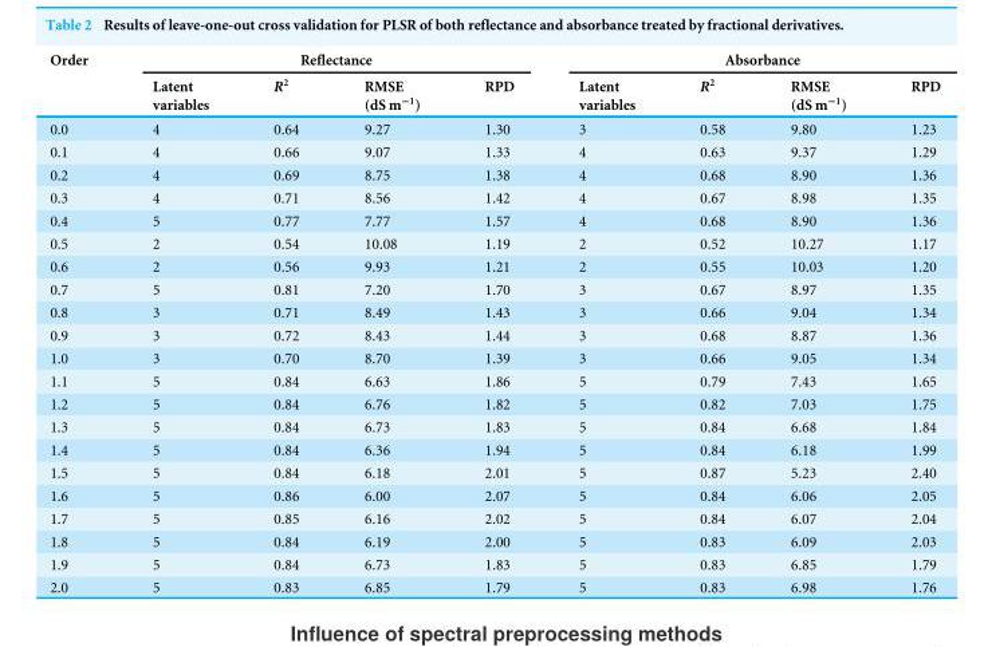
<table><thead><tr><td rowspan="2">Order</td><td colspan="4">Reflectance</td><td colspan="4">Absorbance</td></tr><tr><td>Latent variables</td><td>R<sup>2</sup></td><td>RMSE (dS m<sup>−1</sup>)</td><td>RPD</td><td>Latent variables</td><td>R<sup>2</sup></td><td>RMSE (dS m<sup>−1</sup>)</td><td>RPD</td></tr></thead><tbody><tr><td>0.0</td><td>4</td><td>0.64</td><td>9.27</td><td>1.30</td><td>3</td><td>0.58</td><td>9.80</td><td>1.23</td></tr><tr><td>0.1</td><td>4</td><td>0.66</td><td>9.07</td><td>1.33</td><td>4</td><td>0.63</td><td>9.37</td><td>1.29</td></tr><tr><td>0.2</td><td>4</td><td>0.69</td><td>8.75</td><td>1.38</td><td>4</td><td>0.68</td><td>8.90</td><td>1.36</td></tr><tr><td>0.3</td><td>4</td><td>0.71</td><td>8.56</td><td>1.42</td><td>4</td><td>0.67</td><td>8.98</td><td>1.35</td></tr><tr><td>0.4</td><td>5</td><td>0.77</td><td>7.77</td><td>1.57</td><td>4</td><td>0.68</td><td>8.90</td><td>1.36</td></tr><tr><td>0.5</td><td>2</td><td>0.54</td><td>10.08</td><td>1.19</td><td>2</td><td>0.52</td><td>10.27</td><td>1.17</td></tr><tr><td>0.6</td><td>2</td><td>0.56</td><td>9.93</td><td>1.21</td><td>2</td><td>0.55</td><td>10.03</td><td>1.20</td></tr><tr><td>0.7</td><td>5</td><td>0.81</td><td>7.20</td><td>1.70</td><td>3</td><td>0.67</td><td>8.97</td><td>1.35</td></tr><tr><td>0.8</td><td>3</td><td>0.71</td><td>8.49</td><td>1.43</td><td>3</td><td>0.66</td><td>9.04</td><td>1.34</td></tr><tr><td>0.9</td><td>3</td><td>0.72</td><td>8.43</td><td>1.44</td><td>3</td><td>0.68</td><td>8.87</td><td>1.36</td></tr><tr><td>1.0</td><td>3</td><td>0.70</td><td>8.70</td><td>1.39</td><td>3</td><td>0.66</td><td>9.05</td><td>1.34</td></tr><tr><td>1.1</td><td>5</td><td>0.84</td><td>6.63</td><td>1.86</td><td>5</td><td>0.79</td><td>7.43</td><td>1.65</td></tr><tr><td>1.2</td><td>5</td><td>0.84</td><td>6.76</td><td>1.82</td><td>5</td><td>0.82</td><td>7.03</td><td>1.75</td></tr><tr><td>1.3</td><td>5</td><td>0.84</td><td>6.73</td><td>1.83</td><td>5</td><td>0.84</td><td>6.68</td><td>1.84</td></tr><tr><td>1.4</td><td>5</td><td>0.84</td><td>6.36</td><td>1.94</td><td>5</td><td>0.84</td><td>6.18</td><td>1.99</td></tr><tr><td>1.5</td><td>5</td><td>0.84</td><td>6.18</td><td>2.01</td><td>5</td><td>0.87</td><td>5.23</td><td>2.40</td></tr><tr><td>1.6</td><td>5</td><td>0.86</td><td>6.00</td><td>2.07</td><td>5</td><td>0.84</td><td>6.06</td><td>2.05</td></tr><tr><td>1.7</td><td>5</td><td>0.85</td><td>6.16</td><td>2.02</td><td>5</td><td>0.84</td><td>6.07</td><td>2.04</td></tr><tr><td>1.8</td><td>5</td><td>0.84</td><td>6.19</td><td>2.00</td><td>5</td><td>0.83</td><td>6.09</td><td>2.03</td></tr><tr><td>1.9</td><td>5</td><td>0.84</td><td>6.73</td><td>1.83</td><td>5</td><td>0.83</td><td>6.85</td><td>1.79</td></tr><tr><td>2.0</td><td>5</td><td>0.83</td><td>6.85</td><td>1.79</td><td>5</td><td>0.83</td><td>6.98</td><td>1.76</td></tr></tbody></table>